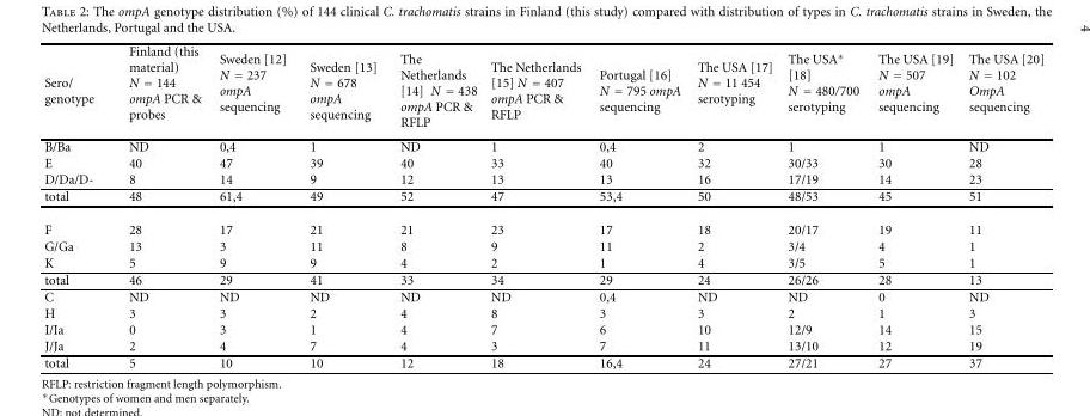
<table><thead><tr><td>Sero/ genotype</td><td>Finland (this material) N = 144 ompA PCR &amp; probes</td><td>Sweden [12] N = 237 ompA sequencing</td><td>Sweden [13] N = 678 ompA sequencing</td><td>The Netherlands [14] N = 438 ompA PCR &amp; RFLP</td><td>The Netherlands [15] N = 407 ompA PCR &amp; RFLP</td><td>Portugal [16] N = 795 ompA sequencing</td><td>The USA [17] N = 11 454 serotyping</td><td>The USA∗ [18] N = 480/700 serotyping</td><td>The USA [19] N = 507 ompA sequencing</td><td>The USA [20] N = 102 OmpA sequencing</td></tr></thead><tbody><tr><td>B/Ba</td><td>ND</td><td>0,4</td><td>1</td><td>ND</td><td>1</td><td>0,4</td><td>2</td><td>1</td><td>1</td><td>ND</td></tr><tr><td>E</td><td>40</td><td>47</td><td>39</td><td>40</td><td>33</td><td>40</td><td>32</td><td>30/33</td><td>30</td><td>28</td></tr><tr><td>D/Da/D-</td><td>8</td><td>14</td><td>9</td><td>12</td><td>13</td><td>13</td><td>16</td><td>17/19</td><td>14</td><td>23</td></tr><tr><td>total</td><td>48</td><td>61,4</td><td>49</td><td>52</td><td>47</td><td>53,4</td><td>50</td><td>48/53</td><td>45</td><td>51</td></tr><tr><td>F</td><td>28</td><td>17</td><td>21</td><td>21</td><td>23</td><td>17</td><td>18</td><td>20/17</td><td>19</td><td>11</td></tr><tr><td>G/Ga</td><td>13</td><td>3</td><td>11</td><td>8</td><td>9</td><td>11</td><td>2</td><td>3/4</td><td>4</td><td>1</td></tr><tr><td>K</td><td>5</td><td>9</td><td>9</td><td>4</td><td>2</td><td>1</td><td>4</td><td>3/5</td><td>5</td><td>1</td></tr><tr><td>total</td><td>46</td><td>29</td><td>41</td><td>33</td><td>34</td><td>29</td><td>24</td><td>26/26</td><td>28</td><td>13</td></tr><tr><td>C</td><td>ND</td><td>ND</td><td>ND</td><td>ND</td><td>ND</td><td>0,4</td><td>ND</td><td>ND</td><td>0</td><td>ND</td></tr><tr><td>H</td><td>3</td><td>3</td><td>2</td><td>4</td><td>8</td><td>3</td><td>3</td><td>2</td><td>1</td><td>3</td></tr><tr><td>I/Ia</td><td>0</td><td>3</td><td>1</td><td>4</td><td>7</td><td>6</td><td>10</td><td>12/9</td><td>14</td><td>15</td></tr><tr><td>J/Ja</td><td>2</td><td>4</td><td>7</td><td>4</td><td>3</td><td>7</td><td>11</td><td>13/10</td><td>12</td><td>19</td></tr><tr><td>total</td><td>5</td><td>10</td><td>10</td><td>12</td><td>18</td><td>16,4</td><td>24</td><td>27/21</td><td>27</td><td>37</td></tr></tbody></table>